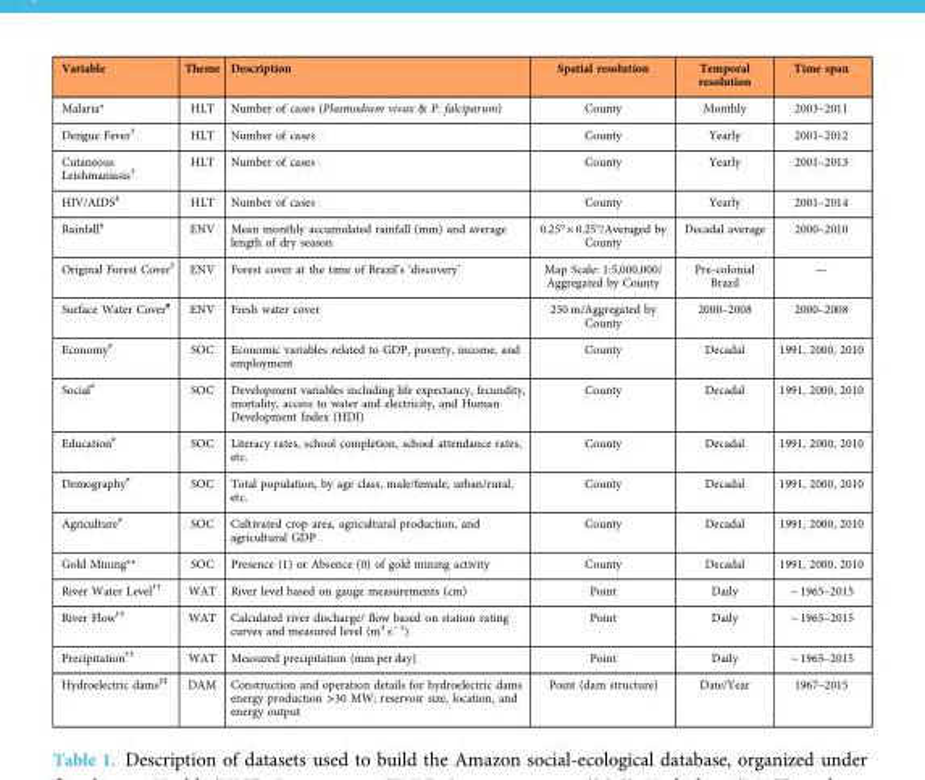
<table><thead><tr><td>Variable</td><td>Theme</td><td>Description</td><td>Spatial resolution</td><td>Temporal resolution</td><td>Time span</td></tr></thead><tbody><tr><td>Malaria*</td><td>HLT</td><td>Number of cases (Plasmodium vivax &amp; P. falciparum)</td><td>County</td><td>Monthly</td><td>2003–2011</td></tr><tr><td>Dengue Fever†</td><td>HLT</td><td>Number of cases</td><td>County</td><td>Yearly</td><td>2001–2012</td></tr><tr><td>Cutaneous Leishmaniasis†</td><td>HLT</td><td>Number of cases</td><td>County</td><td>Yearly</td><td>2001–2013</td></tr><tr><td>HIV/AIDS‡</td><td>HLT</td><td>Number of cases</td><td>County</td><td>Yearly</td><td>2001–2014</td></tr><tr><td>Rainfall§</td><td>ENV</td><td>Mean monthly accumulated rainfall (mm) and average length of dry season</td><td>0.25° × 0.25°/Averaged by County</td><td>Decadal average</td><td>2000–2010</td></tr><tr><td>Original Forest Cover||</td><td>ENV</td><td>Forest cover at the time of Brazil’s ‘discovery’</td><td>Map Scale: 1:5,000,000/ Aggregated by County</td><td>Pre-colonial Brazil</td><td>—</td></tr><tr><td>Surface Water Cover¶</td><td>ENV</td><td>Fresh water cover</td><td>250 m/Aggregated by County</td><td>2000–2008</td><td>2000–2008</td></tr><tr><td>Economy#</td><td>SOC</td><td>Economic variables related to GDP, poverty, income, and employment</td><td>County</td><td>Decadal</td><td>1991, 2000, 2010</td></tr><tr><td>Social#</td><td>SOC</td><td>Development variables including life expectancy, fecundity, mortality, access to water and electricity, and Human Development Index (HDI)</td><td>County</td><td>Decadal</td><td>1991, 2000, 2010</td></tr><tr><td>Education#</td><td>SOC</td><td>Literacy rates, school completion, school attendance rates, etc.</td><td>County</td><td>Decadal</td><td>1991, 2000, 2010</td></tr><tr><td>Demography#</td><td>SOC</td><td>Total population, by age class, male/female, urban/rural, etc.</td><td>County</td><td>Decadal</td><td>1991, 2000, 2010</td></tr><tr><td>Agriculture#</td><td>SOC</td><td>Cultivated crop area, agricultural production, and agricultural GDP</td><td>County</td><td>Decadal</td><td>1991, 2000, 2010</td></tr><tr><td>Gold Mining**</td><td>SOC</td><td>Presence (1) or Absence (0) of gold mining activity</td><td>County</td><td>Decadal</td><td>1991, 2000, 2010</td></tr><tr><td>River Water Level††</td><td>WAT</td><td>River level based on gauge measurements (cm)</td><td>Point</td><td>Daily</td><td>~ 1965–2015</td></tr><tr><td>River Flow††</td><td>WAT</td><td>Calculated river discharge/ flow based on station rating curves and measured level (m<sup>3</sup> s <sup>− 1</sup>)</td><td>Point</td><td>Daily</td><td>~ 1965–2015</td></tr><tr><td>Precipitation††</td><td>WAT</td><td>Measured precipitation (mm per day)</td><td>Point</td><td>Daily</td><td>~ 1965–2015</td></tr><tr><td>Hydroelectric dams‡‡</td><td>DAM</td><td>Construction and operation details for hydroelectric dams energy production &gt;30 MW; reservoir size, location, and energy output</td><td>Point (dam structure)</td><td>Date/Year</td><td>1967–2015</td></tr></tbody></table>